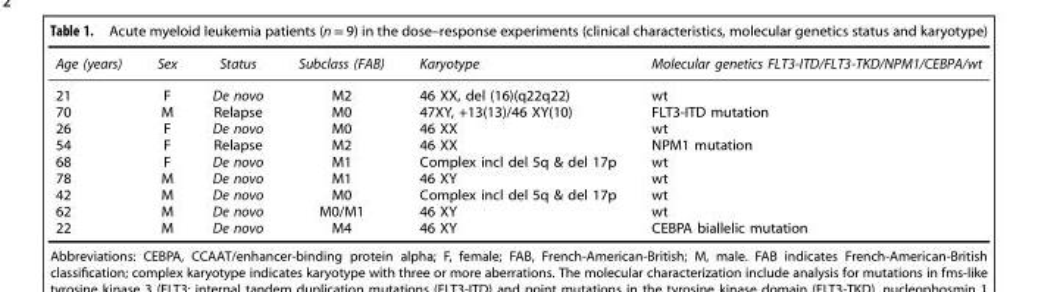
<table><thead><tr><td>Age (years)</td><td>Sex</td><td>Status</td><td>Subclass (FAB)</td><td>Karyotype</td><td>Molecular genetics FLT3-ITD/FLT3-TKD/NPM1/CEBPA/wt</td></tr></thead><tbody><tr><td>21</td><td>F</td><td>De novo</td><td>M2</td><td>46 XX, del (16)(q22q22)</td><td>wt</td></tr><tr><td>70</td><td>M</td><td>Relapse</td><td>M0</td><td>47XY, +13(13)/46 XY(10)</td><td>FLT3-ITD mutation</td></tr><tr><td>26</td><td>F</td><td>De novo</td><td>M0</td><td>46 XX</td><td>wt</td></tr><tr><td>54</td><td>F</td><td>Relapse</td><td>M2</td><td>46 XX</td><td>NPM1 mutation</td></tr><tr><td>68</td><td>F</td><td>De novo</td><td>M1</td><td>Complex incl del 5q &amp; del 17p</td><td>wt</td></tr><tr><td>78</td><td>M</td><td>De novo</td><td>M1</td><td>46 XY</td><td>wt</td></tr><tr><td>42</td><td>M</td><td>De novo</td><td>M0</td><td>Complex incl del 5q &amp; del 17p</td><td>wt</td></tr><tr><td>62</td><td>M</td><td>De novo</td><td>M0/M1</td><td>46 XY</td><td>wt</td></tr><tr><td>22</td><td>M</td><td>De novo</td><td>M4</td><td>46 XY</td><td>CEBPA biallelic mutation</td></tr></tbody></table>